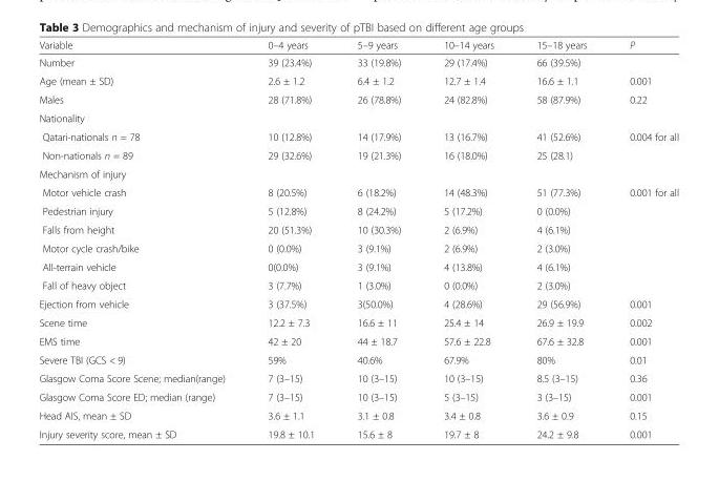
<table><thead><tr><td>Variable</td><td>0–4 years</td><td>5–9 years</td><td>10–14 years</td><td>15–18 years</td><td>P</td></tr></thead><tbody><tr><td>Number</td><td>39 (23.4%)</td><td>33 (19.8%)</td><td>29 (17.4%)</td><td>66 (39.5%)</td><td></td></tr><tr><td>Age (mean ± SD)</td><td>2.6 ± 1.2</td><td>6.4 ± 1.2</td><td>12.7 ± 1.4</td><td>16.6 ± 1.1</td><td>0.001</td></tr><tr><td>Males</td><td>28 (71.8%)</td><td>26 (78.8%)</td><td>24 (82.8%)</td><td>58 (87.9%)</td><td>0.22</td></tr><tr><td colspan="6">Nationality</td></tr><tr><td>Qatari-nationals n = 78</td><td>10 (12.8%)</td><td>14 (17.9%)</td><td>13 (16.7%)</td><td>41 (52.6%)</td><td rowspan="2">0.004 for all</td></tr><tr><td>Non-nationals n = 89</td><td>29 (32.6%)</td><td>19 (21.3%)</td><td>16 (18.0%)</td><td>25 (28.1)</td></tr><tr><td colspan="6">Mechanism of injury</td></tr><tr><td>Motor vehicle crash</td><td>8 (20.5%)</td><td>6 (18.2%)</td><td>14 (48.3%)</td><td>51 (77.3%)</td><td rowspan="5">0.001 for all</td></tr><tr><td>Pedestrian injury</td><td>5 (12.8%)</td><td>8 (24.2%)</td><td>5 (17.2%)</td><td>0 (0.0%)</td></tr><tr><td>Falls from height</td><td>20 (51.3%)</td><td>10 (30.3%)</td><td>2 (6.9%)</td><td>4 (6.1%)</td></tr><tr><td>Motor cycle crash/bike</td><td>0 (0.0%)</td><td>3 (9.1%)</td><td>2 (6.9%)</td><td>2 (3.0%)</td></tr><tr><td>All-terrain vehicle</td><td>0(0.0%)</td><td>3 (9.1%)</td><td>4 (13.8%)</td><td>4 (6.1%)</td></tr><tr><td>Fall of heavy object</td><td>3 (7.7%)</td><td>1 (3.0%)</td><td>0 (0.0%)</td><td>2 (3.0%)</td><td></td></tr><tr><td>Ejection from vehicle</td><td>3 (37.5%)</td><td>3(50.0%)</td><td>4 (28.6%)</td><td>29 (56.9%)</td><td>0.001</td></tr><tr><td>Scene time</td><td>12.2 ± 7.3</td><td>16.6 ± 11</td><td>25.4 ± 14</td><td>26.9 ± 19.9</td><td>0.002</td></tr><tr><td>EMS time</td><td>42 ± 20</td><td>44 ± 18.7</td><td>57.6 ± 22.8</td><td>67.6 ± 32.8</td><td>0.001</td></tr><tr><td>Severe TBI (GCS &lt; 9)</td><td>59%</td><td>40.6%</td><td>67.9%</td><td>80%</td><td>0.01</td></tr><tr><td>Glasgow Coma Score Scene; median(range)</td><td>7 (3–15)</td><td>10 (3–15)</td><td>10 (3–15)</td><td>8.5 (3–15)</td><td>0.36</td></tr><tr><td>Glasgow Coma Score ED; median (range)</td><td>7 (3–15)</td><td>10 (3–15)</td><td>5 (3–15)</td><td>3 (3–15)</td><td>0.001</td></tr><tr><td>Head AIS, mean ± SD</td><td>3.6 ± 1.1</td><td>3.1 ± 0.8</td><td>3.4 ± 0.8</td><td>3.6 ± 0.9</td><td>0.15</td></tr><tr><td>Injury severity score, mean ± SD</td><td>19.8 ± 10.1</td><td>15.6 ± 8</td><td>19.7 ± 8</td><td>24.2 ± 9.8</td><td>0.001</td></tr></tbody></table>